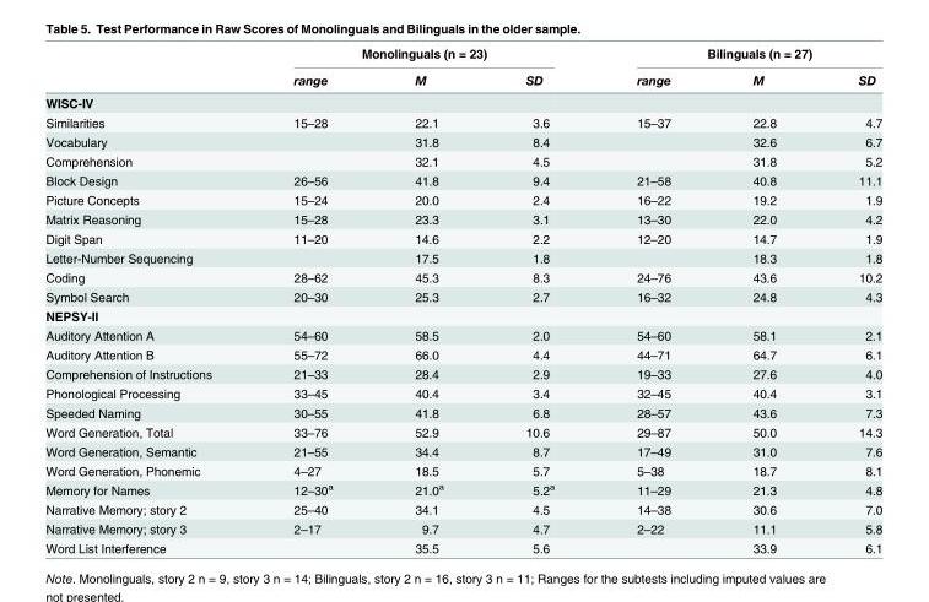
<table><thead><tr><td rowspan="2"></td><td colspan="3">Monolinguals (n = 23)</td><td colspan="3">Bilinguals (n = 27)</td></tr><tr><td>range</td><td>M</td><td>SD</td><td>range</td><td>M</td><td>SD</td></tr></thead><tbody><tr><td colspan="7">WISC-IV</td></tr><tr><td>Similarities</td><td>15–28</td><td>22.1</td><td>3.6</td><td>15–37</td><td>22.8</td><td>4.7</td></tr><tr><td>Vocabulary</td><td></td><td>31.8</td><td>8.4</td><td></td><td>32.6</td><td>6.7</td></tr><tr><td>Comprehension</td><td></td><td>32.1</td><td>4.5</td><td></td><td>31.8</td><td>5.2</td></tr><tr><td>Block Design</td><td>26–56</td><td>41.8</td><td>9.4</td><td>21–58</td><td>40.8</td><td>11.1</td></tr><tr><td>Picture Concepts</td><td>15–24</td><td>20.0</td><td>2.4</td><td>16–22</td><td>19.2</td><td>1.9</td></tr><tr><td>Matrix Reasoning</td><td>15–28</td><td>23.3</td><td>3.1</td><td>13–30</td><td>22.0</td><td>4.2</td></tr><tr><td>Digit Span</td><td>11–20</td><td>14.6</td><td>2.2</td><td>12–20</td><td>14.7</td><td>1.9</td></tr><tr><td>Letter-Number Sequencing</td><td></td><td>17.5</td><td>1.8</td><td></td><td>18.3</td><td>1.8</td></tr><tr><td>Coding</td><td>28–62</td><td>45.3</td><td>8.3</td><td>24–76</td><td>43.6</td><td>10.2</td></tr><tr><td>Symbol Search</td><td>20–30</td><td>25.3</td><td>2.7</td><td>16–32</td><td>24.8</td><td>4.3</td></tr><tr><td colspan="7">NEPSY-II</td></tr><tr><td>Auditory Attention A</td><td>54–60</td><td>58.5</td><td>2.0</td><td>54–60</td><td>58.1</td><td>2.1</td></tr><tr><td>Auditory Attention B</td><td>55–72</td><td>66.0</td><td>4.4</td><td>44–71</td><td>64.7</td><td>6.1</td></tr><tr><td>Comprehension of Instructions</td><td>21–33</td><td>28.4</td><td>2.9</td><td>19–33</td><td>27.6</td><td>4.0</td></tr><tr><td>Phonological Processing</td><td>33–45</td><td>40.4</td><td>3.4</td><td>32–45</td><td>40.4</td><td>3.1</td></tr><tr><td>Speeded Naming</td><td>30–55</td><td>41.8</td><td>6.8</td><td>28–57</td><td>43.6</td><td>7.3</td></tr><tr><td>Word Generation, Total</td><td>33–76</td><td>52.9</td><td>10.6</td><td>29–87</td><td>50.0</td><td>14.3</td></tr><tr><td>Word Generation, Semantic</td><td>21–55</td><td>34.4</td><td>8.7</td><td>17–49</td><td>31.0</td><td>7.6</td></tr><tr><td>Word Generation, Phonemic</td><td>4–27</td><td>18.5</td><td>5.7</td><td>5–38</td><td>18.7</td><td>8.1</td></tr><tr><td>Memory for Names</td><td>12–30<sup>a</sup></td><td>21.0<sup>a</sup></td><td>5.2<sup>a</sup></td><td>11–29</td><td>21.3</td><td>4.8</td></tr><tr><td>Narrative Memory; story 2</td><td>25–40</td><td>34.1</td><td>4.5</td><td>14–38</td><td>30.6</td><td>7.0</td></tr><tr><td>Narrative Memory; story 3</td><td>2–17</td><td>9.7</td><td>4.7</td><td>2–22</td><td>11.1</td><td>5.8</td></tr><tr><td>Word List Interference</td><td></td><td>35.5</td><td>5.6</td><td></td><td>33.9</td><td>6.1</td></tr></tbody></table>